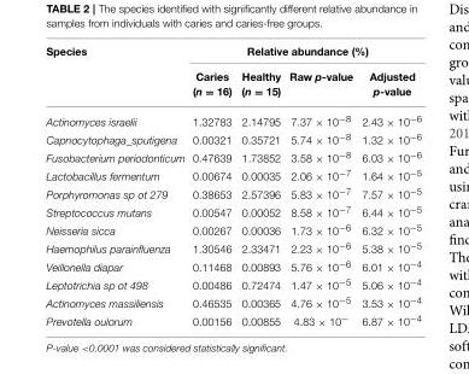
<table><thead><tr><td rowspan="2">Species</td><td colspan="4">Relative abundance (%)</td></tr><tr><td>Caries (n = 16)</td><td>Healthy (n = 15)</td><td>Raw p-value</td><td>Adjusted p-value</td></tr></thead><tbody><tr><td>Actinomyces israelii</td><td>1.32783</td><td>2.14795</td><td>7.37 × 10<sup>−8</sup></td><td>2.43 × 10<sup>−6</sup></td></tr><tr><td>Capnocytophaga_sputigena</td><td>0.00321</td><td>0.35721</td><td>5.74 × 10<sup>−8</sup></td><td>1.32 × 10<sup>−6</sup></td></tr><tr><td>Fusobacterium periodonticum</td><td>0.47639</td><td>1.73852</td><td>3.58 × 10<sup>−8</sup></td><td>6.03 × 10<sup>−6</sup></td></tr><tr><td>Lactobacillus fermentum</td><td>0.00674</td><td>0.00035</td><td>2.06 × 10<sup>−7</sup></td><td>1.64 × 10<sup>−5</sup></td></tr><tr><td>Porphyromonas sp ot 279</td><td>0.38653</td><td>2.57396</td><td>5.83 × 10<sup>−7</sup></td><td>7.57 × 10<sup>−5</sup></td></tr><tr><td>Streptococcus mutans</td><td>0.00547</td><td>0.00052</td><td>8.58 × 10<sup>−7</sup></td><td>6.44 × 10<sup>−5</sup></td></tr><tr><td>Neisseria sicca</td><td>0.00267</td><td>0.00036</td><td>1.73 × 10<sup>−6</sup></td><td>6.32 × 10<sup>−5</sup></td></tr><tr><td>Haemophilus parainfluenza</td><td>1.30546</td><td>2.33471</td><td>2.23 × 10<sup>−6</sup></td><td>5.38 × 10<sup>−5</sup></td></tr><tr><td>Veillonella diapar</td><td>0.11468</td><td>0.00893</td><td>5.76 × 10<sup>−6</sup></td><td>6.01 × 10<sup>−4</sup></td></tr><tr><td>Leptotrichia sp ot 498</td><td>0.00486</td><td>0.72474</td><td>1.47 × 10<sup>−5</sup></td><td>5.06 × 10<sup>−4</sup></td></tr><tr><td>Actinomyces massiliensis</td><td>0.46535</td><td>0.00365</td><td>4.76 × 10<sup>−5</sup></td><td>3.53 × 10<sup>−4</sup></td></tr><tr><td>Prevotella oulorum</td><td>0.00156</td><td>0.00855</td><td>4.83 × 10<sup>−</sup></td><td>6.87 × 10<sup>−4</sup></td></tr></tbody></table>